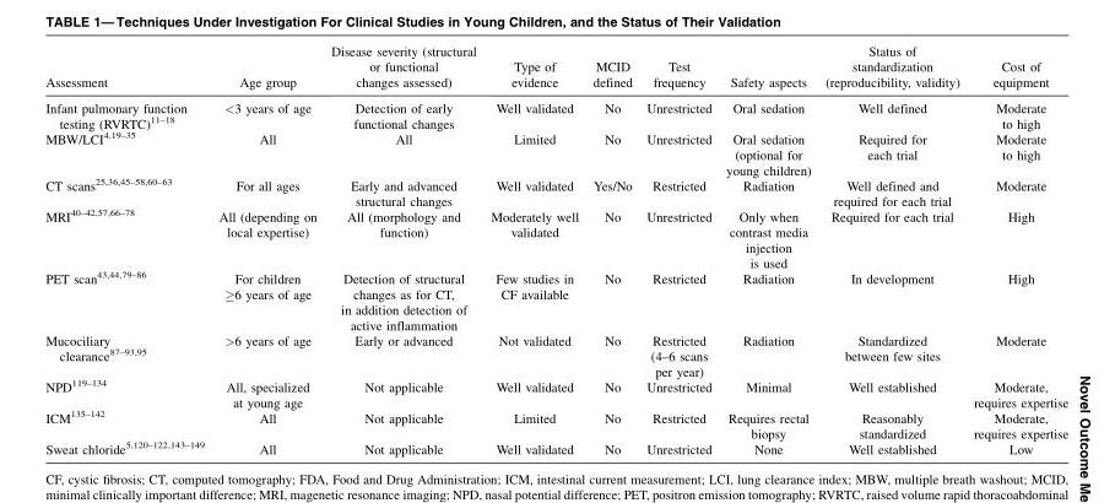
<table><thead><tr><td>Assessment</td><td>Age group</td><td>Disease severity (structural or functional changes assessed)</td><td>Type of evidence</td><td>MCID defined</td><td>Test frequency</td><td>Safety aspects</td><td>Status of standardization (reproducibility, validity)</td><td>Cost of equipment</td></tr></thead><tbody><tr><td>Infant pulmonary function testing (RVRTC)<sup>11</sup>–<sup>18</sup></td><td>&lt;3 years of age</td><td>Detection of early functional changes</td><td>Well validated</td><td>No</td><td>Unrestricted</td><td>Oral sedation</td><td>Well defined</td><td>Moderate to high</td></tr><tr><td>MBW/LCI<sup>4</sup>,<sup>19</sup>–<sup>35</sup></td><td>All</td><td>All</td><td>Limited</td><td>No</td><td>Unrestricted</td><td>Oral sedation (optional for young children)</td><td>Required for each trial</td><td>Moderate to high</td></tr><tr><td>CT scans<sup>25</sup>,<sup>36</sup>,<sup>45</sup>–<sup>58</sup>,<sup>60</sup>–<sup>63</sup></td><td>For all ages</td><td>Early and advanced structural changes</td><td>Well validated</td><td>Yes/No</td><td>Restricted</td><td>Radiation</td><td>Well defined and required for each trial</td><td>Moderate</td></tr><tr><td>MRI<sup>40</sup>–<sup>42</sup>,<sup>57</sup>,<sup>66</sup>–<sup>78</sup></td><td>All (depending on local expertise)</td><td>All (morphology and function)</td><td>Moderately well validated</td><td>No</td><td>Unrestricted</td><td>Only when contrast media injection is used</td><td>Required for each trial</td><td>High</td></tr><tr><td>PET scan<sup>43</sup>,<sup>44</sup>,<sup>79</sup>–<sup>86</sup></td><td>For children ≥6 years of age</td><td>Detection of structural changes as for CT, in addition detection of active inflammation</td><td>Few studies in CF available</td><td>No</td><td>Restricted</td><td>Radiation</td><td>In development</td><td>High</td></tr><tr><td>Mucociliary clearance<sup>87</sup>–<sup>93</sup>,<sup>95</sup></td><td>&gt;6 years of age</td><td>Early or advanced</td><td>Not validated</td><td>No</td><td>Restricted (4–6 scans per year)</td><td>Radiation</td><td>Standardized between few sites</td><td>Moderate</td></tr><tr><td>NPD<sup>119</sup>–<sup>134</sup></td><td>All, specialized at young age</td><td>Not applicable</td><td>Well validated</td><td>No</td><td>Unrestricted</td><td>Minimal</td><td>Well established</td><td>Moderate, requires expertise</td></tr><tr><td>ICM<sup>135</sup>–<sup>142</sup></td><td>All</td><td>Not applicable</td><td>Limited</td><td>No</td><td>Restricted</td><td>Requires rectal biopsy</td><td>Reasonably standardized</td><td>Moderate, requires expertise</td></tr><tr><td>Sweat chloride<sup>5</sup>,<sup>120</sup>–<sup>122</sup>,<sup>143</sup>–<sup>149</sup></td><td>All</td><td>Not applicable</td><td>Well validated</td><td>No</td><td>Unrestricted</td><td>None</td><td>Well established</td><td>Low</td></tr></tbody></table>